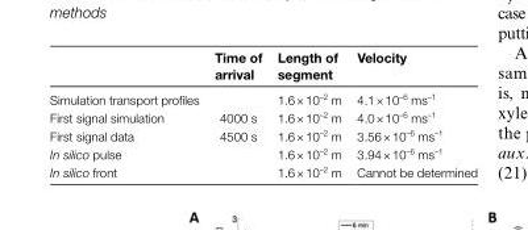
<table><thead><tr><td></td><td>Time of arrival</td><td>Length of segment</td><td>Velocity</td></tr></thead><tbody><tr><td>Simulation transport profiles</td><td></td><td>1.6 × 10<sup>–2</sup> m</td><td>4.1 × 10<sup>–6</sup> ms<sup>–1</sup></td></tr><tr><td>First signal simulation</td><td>4000 s</td><td>1.6 × 10<sup>–2</sup> m</td><td>4.0 × 10<sup>–6</sup> ms<sup>–1</sup></td></tr><tr><td>First signal data</td><td>4500 s</td><td>1.6 × 10<sup>–2</sup> m</td><td>3.56 × 10<sup>–6</sup> ms<sup>–1</sup></td></tr><tr><td>In silico pulse</td><td></td><td>1.6 × 10<sup>–2</sup> m</td><td>3.94 × 10<sup>–6</sup> ms<sup>–1</sup></td></tr><tr><td>In silico front</td><td></td><td>1.6 × 10<sup>–2</sup> m</td><td>Cannot be determined</td></tr></tbody></table>